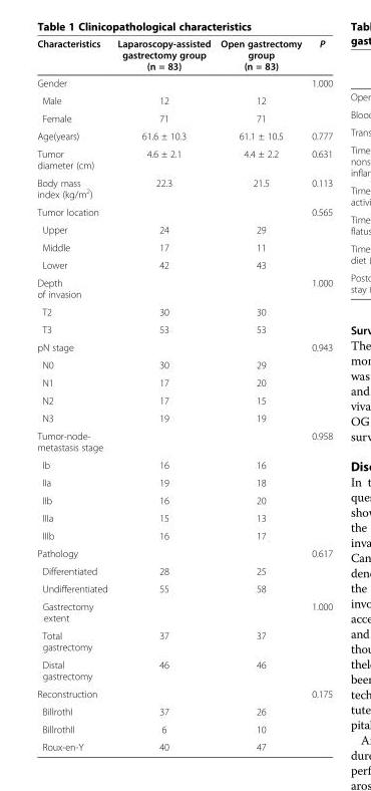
<table><thead><tr><td>Characteristics</td><td>Laparoscopy-assisted gastrectomy group (n = 83)</td><td>Open gastrectomy group (n = 83)</td><td>P</td></tr></thead><tbody><tr><td>Gender</td><td></td><td></td><td>1.000</td></tr><tr><td>Male</td><td>12</td><td>12</td><td></td></tr><tr><td>Female</td><td>71</td><td>71</td><td></td></tr><tr><td>Age(years)</td><td>61.6 ± 10.3</td><td>61.1 ± 10.5</td><td>0.777</td></tr><tr><td>Tumor diameter (cm)</td><td>4.6 ± 2.1</td><td>4.4 ± 2.2</td><td>0.631</td></tr><tr><td>Body mass index (kg/m<sup>2</sup>)</td><td>22.3</td><td>21.5</td><td>0.113</td></tr><tr><td>Tumor location</td><td></td><td></td><td>0.565</td></tr><tr><td>Upper</td><td>24</td><td>29</td><td></td></tr><tr><td>Middle</td><td>17</td><td>11</td><td></td></tr><tr><td>Lower</td><td>42</td><td>43</td><td></td></tr><tr><td>Depth of invasion</td><td></td><td></td><td>1.000</td></tr><tr><td>T2</td><td>30</td><td>30</td><td></td></tr><tr><td>T3</td><td>53</td><td>53</td><td></td></tr><tr><td>pN stage</td><td></td><td></td><td>0.943</td></tr><tr><td>N0</td><td>30</td><td>29</td><td></td></tr><tr><td>N1</td><td>17</td><td>20</td><td></td></tr><tr><td>N2</td><td>17</td><td>15</td><td></td></tr><tr><td>N3</td><td>19</td><td>19</td><td></td></tr><tr><td>Tumor-node- metastasis stage</td><td></td><td></td><td>0.958</td></tr><tr><td>Ib</td><td>16</td><td>16</td><td></td></tr><tr><td>IIa</td><td>19</td><td>18</td><td></td></tr><tr><td>IIb</td><td>16</td><td>20</td><td></td></tr><tr><td>IIIa</td><td>15</td><td>13</td><td></td></tr><tr><td>IIIb</td><td>16</td><td>17</td><td></td></tr><tr><td>Pathology</td><td></td><td></td><td>0.617</td></tr><tr><td>Differentiated</td><td>28</td><td>25</td><td></td></tr><tr><td>Undifferentiated</td><td>55</td><td>58</td><td></td></tr><tr><td>Gastrectomy extent</td><td></td><td></td><td>1.000</td></tr><tr><td>Total gastrectomy</td><td>37</td><td>37</td><td></td></tr><tr><td>Distal gastrectomy</td><td>46</td><td>46</td><td></td></tr><tr><td>Reconstruction</td><td></td><td></td><td>0.175</td></tr><tr><td>BillrothI</td><td>37</td><td>26</td><td></td></tr><tr><td>BillrothII</td><td>6</td><td>10</td><td></td></tr><tr><td>Roux-en-Y</td><td>40</td><td>47</td><td></td></tr></tbody></table>